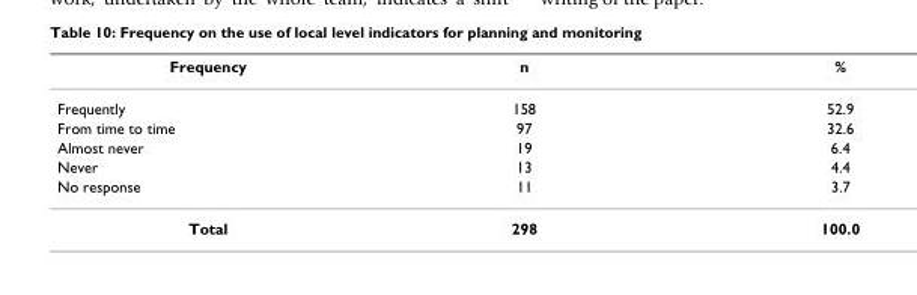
<table><thead><tr><td>Frequency</td><td>n</td><td>%</td></tr></thead><tbody><tr><td>Frequently</td><td>158</td><td>52.9</td></tr><tr><td>From time to time</td><td>97</td><td>32.6</td></tr><tr><td>Almost never</td><td>19</td><td>6.4</td></tr><tr><td>Never</td><td>13</td><td>4.4</td></tr><tr><td>No response</td><td>11</td><td>3.7</td></tr><tr><td>Total</td><td>298</td><td>100.0</td></tr></tbody></table>